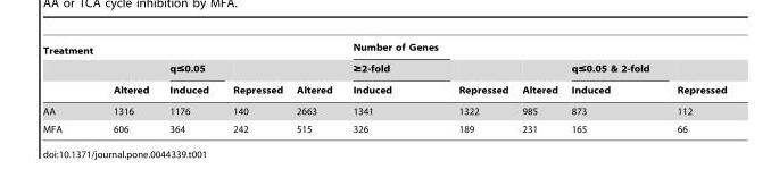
<table><thead><tr><td rowspan="3">Treatment</td><td rowspan="3">Altered</td><td rowspan="3">q≤0.05 Induced</td><td rowspan="3">Repressed</td><td rowspan="3">Altered</td><td rowspan="3">Number of Genes ≥2-fold Induced</td><td rowspan="3">Repressed</td><td rowspan="3">Altered</td><td rowspan="3">q≤0.05 &amp; 2-fold Induced</td><td rowspan="3">Repressed</td></tr><tr></tr><tr></tr></thead><tbody><tr><td>AA</td><td>1316</td><td>1176</td><td>140</td><td>2663</td><td>1341</td><td>1322</td><td>985</td><td>873</td><td>112</td></tr><tr><td>MFA</td><td>606</td><td>364</td><td>242</td><td>515</td><td>326</td><td>189</td><td>231</td><td>165</td><td>66</td></tr></tbody></table>